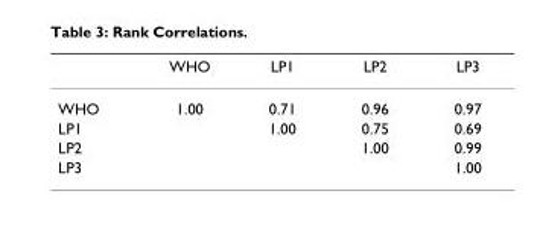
<table><thead><tr><td></td><td>WHO</td><td>LP1</td><td>LP2</td><td>LP3</td></tr></thead><tbody><tr><td>WHO</td><td>1.00</td><td>0.71</td><td>0.96</td><td>0.97</td></tr><tr><td>LP1</td><td></td><td>1.00</td><td>0.75</td><td>0.69</td></tr><tr><td>LP2</td><td></td><td></td><td>1.00</td><td>0.99</td></tr><tr><td>LP3</td><td></td><td></td><td></td><td>1.00</td></tr></tbody></table>